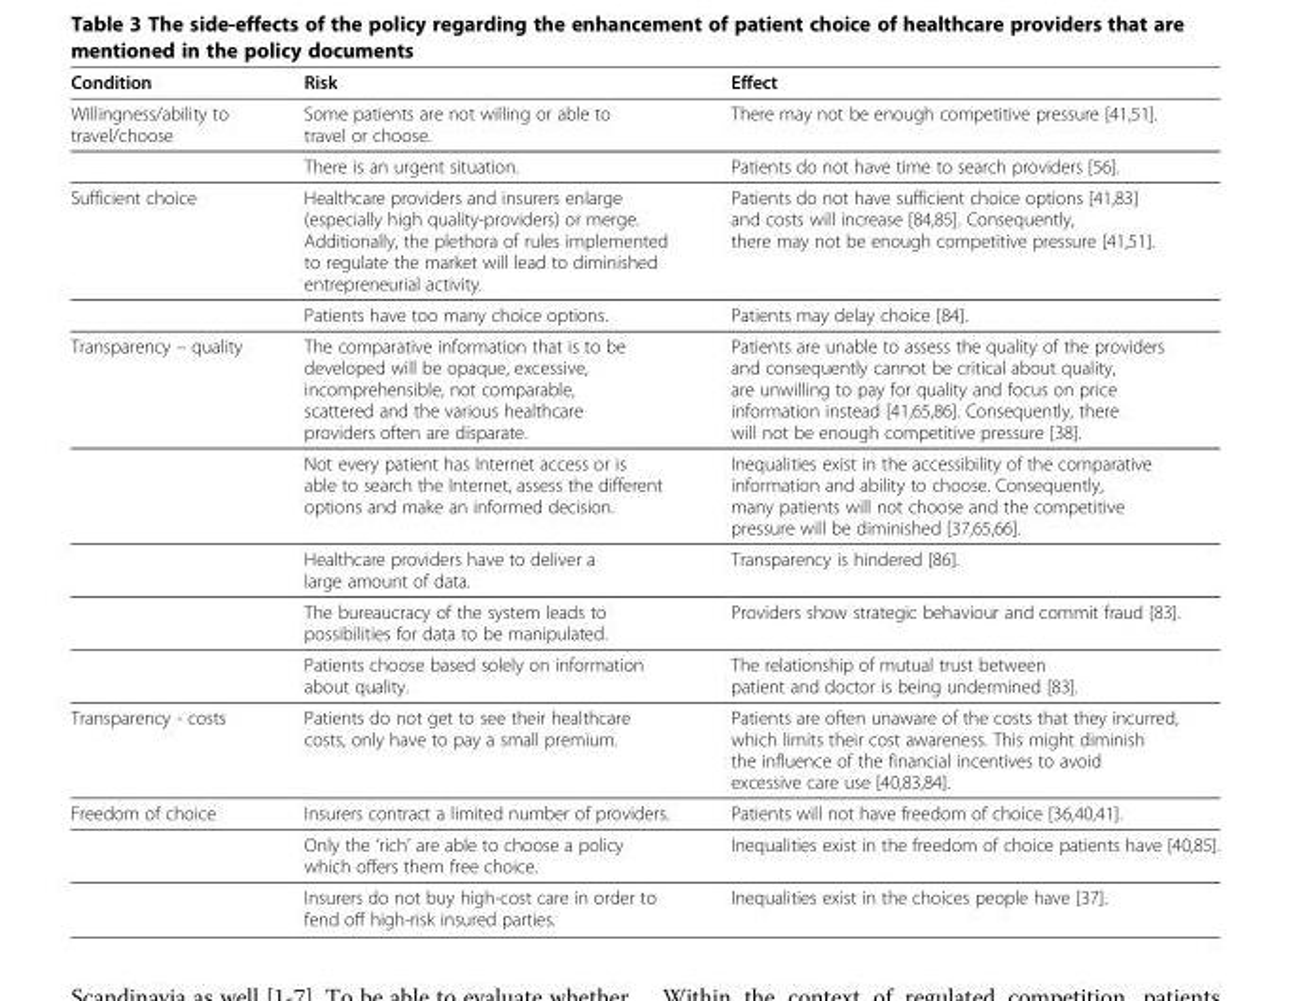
<table><thead><tr><td>Condition</td><td>Risk</td><td>Effect</td></tr></thead><tbody><tr><td rowspan="2">Willingness/ability to travel/choose</td><td>Some patients are not willing or able to travel or choose.</td><td>There may not be enough competitive pressure [41,51].</td></tr><tr><td>There is an urgent situation.</td><td>Patients do not have time to search providers [56].</td></tr><tr><td rowspan="2">Sufficient choice</td><td>Healthcare providers and insurers enlarge (especially high quality-providers) or merge. Additionally, the plethora of rules implemented to regulate the market will lead to diminished entrepreneurial activity.</td><td>Patients do not have sufficient choice options [41,83] and costs will increase [84,85]. Consequently, there may not be enough competitive pressure [41,51].</td></tr><tr><td>Patients have too many choice options.</td><td>Patients may delay choice [84].</td></tr><tr><td rowspan="5">Transparency – quality</td><td>The comparative information that is to be developed will be opaque, excessive, incomprehensible, not comparable, scattered and the various healthcare providers often are disparate.</td><td>Patients are unable to assess the quality of the providers and consequently cannot be critical about quality, are unwilling to pay for quality and focus on price information instead [41,65,86]. Consequently, there will not be enough competitive pressure [38].</td></tr><tr><td>Not every patient has Internet access or is able to search the Internet, assess the different options and make an informed decision.</td><td>Inequalities exist in the accessibility of the comparative information and ability to choose. Consequently, many patients will not choose and the competitive pressure will be diminished [37,65,66].</td></tr><tr><td>Healthcare providers have to deliver a large amount of data.</td><td>Transparency is hindered [86].</td></tr><tr><td>The bureaucracy of the system leads to possibilities for data to be manipulated.</td><td>Providers show strategic behaviour and commit fraud [83].</td></tr><tr><td>Patients choose based solely on information about quality.</td><td>The relationship of mutual trust between patient and doctor is being undermined [83].</td></tr><tr><td>Transparency - costs</td><td>Patients do not get to see their healthcare costs, only have to pay a small premium.</td><td>Patients are often unaware of the costs that they incurred, which limits their cost awareness. This might diminish the influence of the financial incentives to avoid excessive care use [40,83,84].</td></tr><tr><td rowspan="3">Freedom of choice</td><td>Insurers contract a limited number of providers.</td><td>Patients will not have freedom of choice [36,40,41].</td></tr><tr><td>Only the ‘rich’ are able to choose a policy which offers them free choice.</td><td>Inequalities exist in the freedom of choice patients have [40,85].</td></tr><tr><td>Insurers do not buy high-cost care in order to fend off high-risk insured parties.</td><td>Inequalities exist in the choices people have [37].</td></tr></tbody></table>